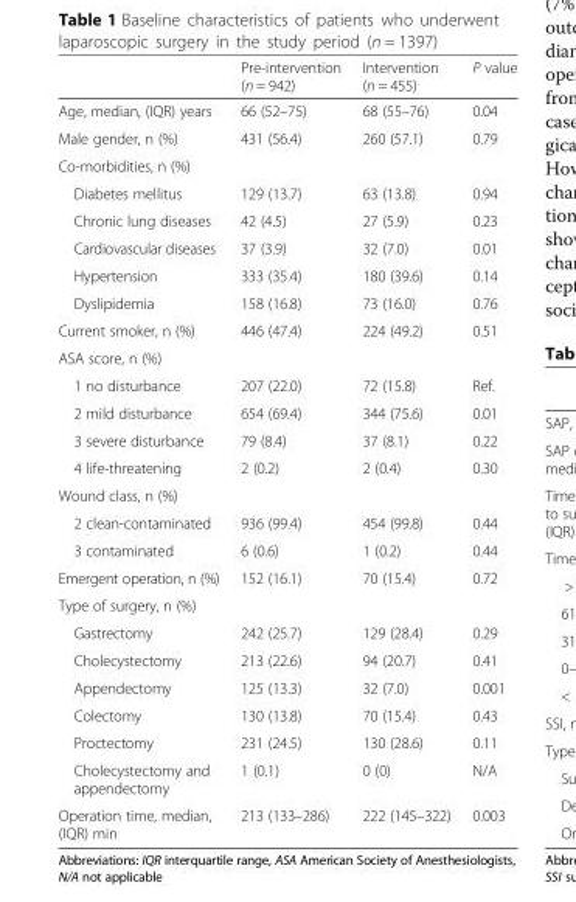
<table><thead><tr><td></td><td>Pre-intervention (n = 942)</td><td>Intervention (n = 455)</td><td>P value</td></tr></thead><tbody><tr><td>Age, median, (IQR) years</td><td>66 (52–75)</td><td>68 (55–76)</td><td>0.04</td></tr><tr><td>Male gender, n (%)</td><td>431 (56.4)</td><td>260 (57.1)</td><td>0.79</td></tr><tr><td colspan="4">Co-morbidities, n (%)</td></tr><tr><td>Diabetes mellitus</td><td>129 (13.7)</td><td>63 (13.8)</td><td>0.94</td></tr><tr><td>Chronic lung diseases</td><td>42 (4.5)</td><td>27 (5.9)</td><td>0.23</td></tr><tr><td>Cardiovascular diseases</td><td>37 (3.9)</td><td>32 (7.0)</td><td>0.01</td></tr><tr><td>Hypertension</td><td>333 (35.4)</td><td>180 (39.6)</td><td>0.14</td></tr><tr><td>Dyslipidemia</td><td>158 (16.8)</td><td>73 (16.0)</td><td>0.76</td></tr><tr><td>Current smoker, n (%)</td><td>446 (47.4)</td><td>224 (49.2)</td><td>0.51</td></tr><tr><td colspan="4">ASA score, n (%)</td></tr><tr><td>1 no disturbance</td><td>207 (22.0)</td><td>72 (15.8)</td><td>Ref.</td></tr><tr><td>2 mild disturbance</td><td>654 (69.4)</td><td>344 (75.6)</td><td>0.01</td></tr><tr><td>3 severe disturbance</td><td>79 (8.4)</td><td>37 (8.1)</td><td>0.22</td></tr><tr><td>4 life-threatening</td><td>2 (0.2)</td><td>2 (0.4)</td><td>0.30</td></tr><tr><td colspan="4">Wound class, n (%)</td></tr><tr><td>2 clean-contaminated</td><td>936 (99.4)</td><td>454 (99.8)</td><td>0.44</td></tr><tr><td>3 contaminated</td><td>6 (0.6)</td><td>1 (0.2)</td><td>0.44</td></tr><tr><td>Emergent operation, n (%)</td><td>152 (16.1)</td><td>70 (15.4)</td><td>0.72</td></tr><tr><td colspan="4">Type of surgery, n (%)</td></tr><tr><td>Gastrectomy</td><td>242 (25.7)</td><td>129 (28.4)</td><td>0.29</td></tr><tr><td>Cholecystectomy</td><td>213 (22.6)</td><td>94 (20.7)</td><td>0.41</td></tr><tr><td>Appendectomy</td><td>125 (13.3)</td><td>32 (7.0)</td><td>0.001</td></tr><tr><td>Colectomy</td><td>130 (13.8)</td><td>70 (15.4)</td><td>0.43</td></tr><tr><td>Proctectomy</td><td>231 (24.5)</td><td>130 (28.6)</td><td>0.11</td></tr><tr><td>Cholecystectomy and appendectomy</td><td>1 (0.1)</td><td>0 (0)</td><td>N/A</td></tr><tr><td>Operation time, median, (IQR) min</td><td>213 (133–286)</td><td>222 (145–322)</td><td>0.003</td></tr></tbody></table>